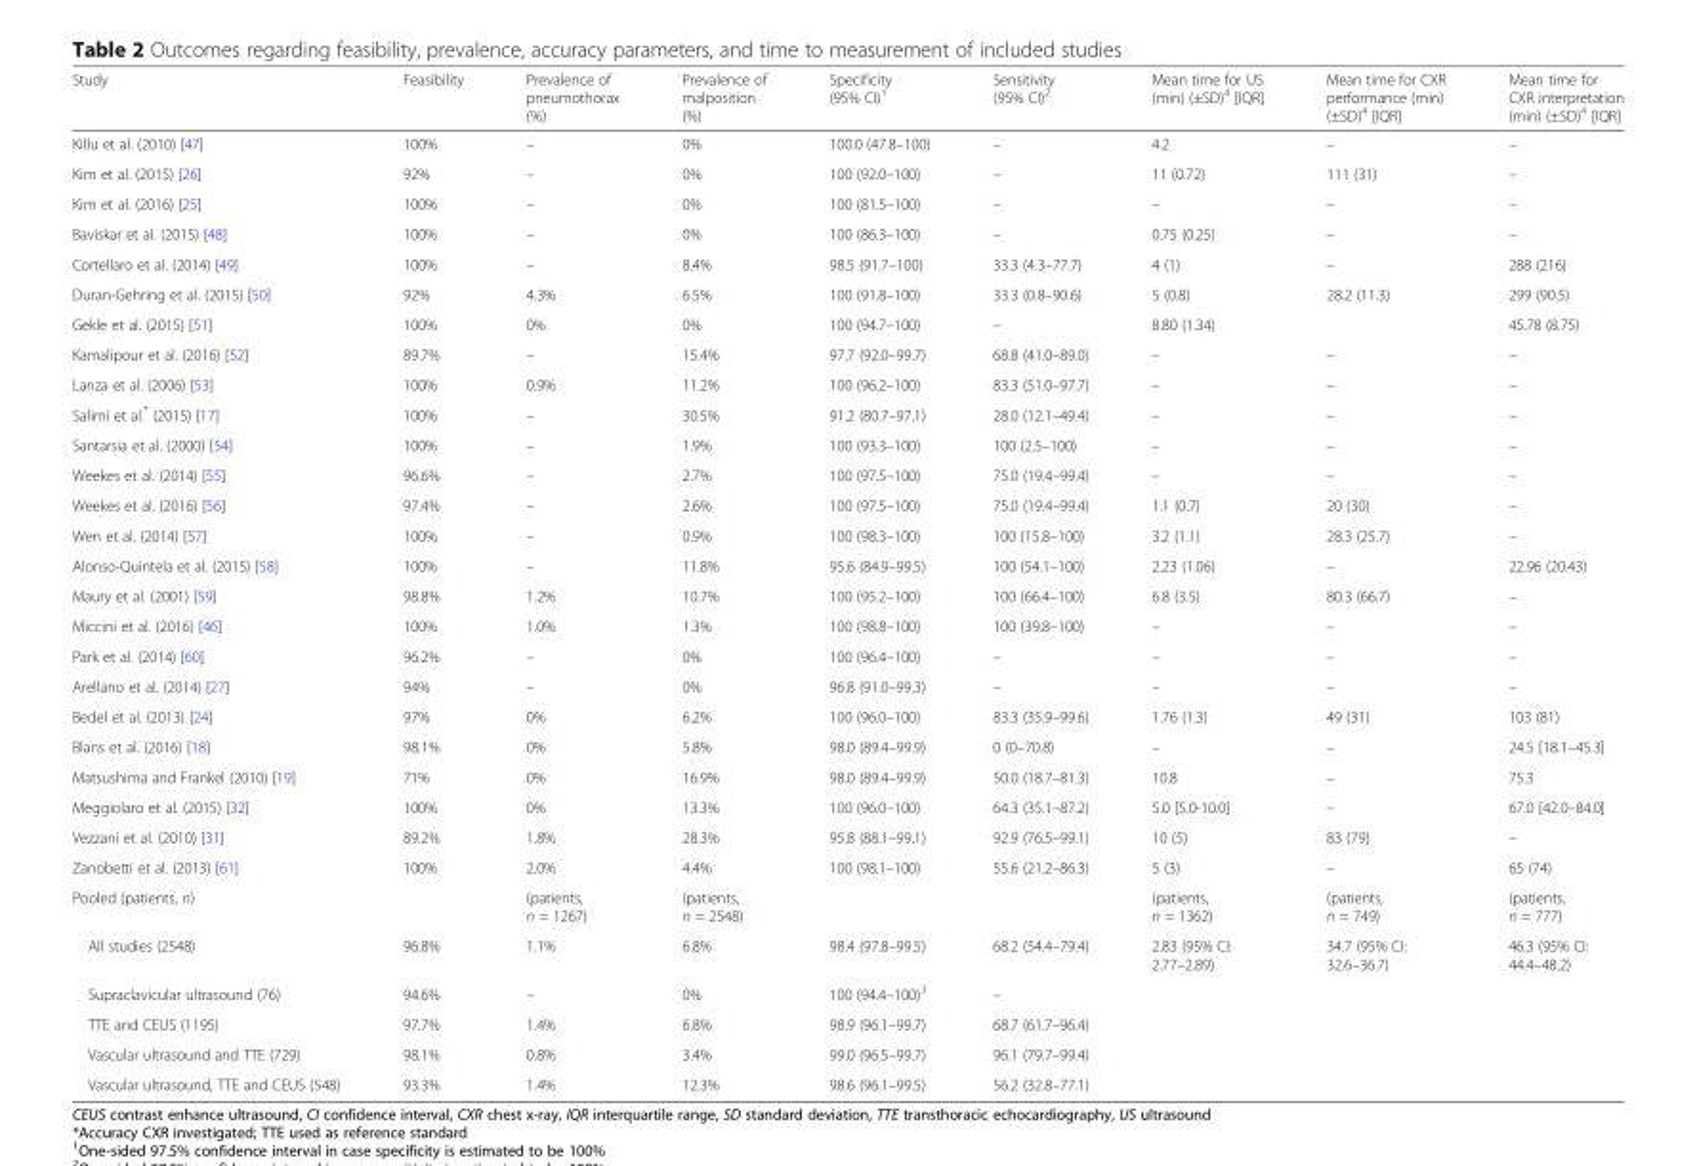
<table><thead><tr><td>Study</td><td>Feasibility</td><td>Prevalence of pneumothorax (%)</td><td>Prevalence of malposition (%)</td><td>Specificity (95% CI)<sup>1</sup></td><td>Sensitivity (95% CI)<sup>2</sup></td><td>Mean time for US (min) (±SD)<sup>4</sup> [IQR]</td><td>Mean time for CXR performance (min) (±SD)<sup>4</sup> [IQR]</td><td>Mean time for CXR interpretation (min) (±SD)<sup>4</sup> [IQR]</td></tr></thead><tbody><tr><td>Killu et al. (2010) [47]</td><td>100%</td><td>–</td><td>0%</td><td>100.0 (47.8–100)</td><td>–</td><td>4.2</td><td>–</td><td>–</td></tr><tr><td>Kim et al. (2015) [26]</td><td>92%</td><td>–</td><td>0%</td><td>100 (92.0–100)</td><td>–</td><td>11 (0.72)</td><td>111 (31)</td><td>–</td></tr><tr><td>Kim et al. (2016) [25]</td><td>100%</td><td>–</td><td>0%</td><td>100 (81.5–100)</td><td>–</td><td>–</td><td>–</td><td>–</td></tr><tr><td>Baviskar et al. (2015) [48]</td><td>100%</td><td>–</td><td>0%</td><td>100 (86.3–100)</td><td>–</td><td>0.75 (0.25)</td><td>–</td><td>–</td></tr><tr><td>Cortellaro et al. (2014) [49]</td><td>100%</td><td>–</td><td>8.4%</td><td>98.5 (91.7–100)</td><td>33.3 (4.3–77.7)</td><td>4 (1)</td><td>–</td><td>288 (216)</td></tr><tr><td>Duran-Gehring et al. (2015) [50]</td><td>92%</td><td>4.3%</td><td>6.5%</td><td>100 (91.8–100)</td><td>33.3 (0.8–90.6)</td><td>5 (0.8)</td><td>28.2 (11.3)</td><td>299 (90.5)</td></tr><tr><td>Gekle et al. (2015) [51]</td><td>100%</td><td>0%</td><td>0%</td><td>100 (94.7–100)</td><td>–</td><td>8.80 (1.34)</td><td></td><td>45.78 (8.75)</td></tr><tr><td>Kamalipour et al. (2016) [52]</td><td>89.7%</td><td>–</td><td>15.4%</td><td>97.7 (92.0–99.7)</td><td>68.8 (41.0–89.0)</td><td>–</td><td>–</td><td>–</td></tr><tr><td>Lanza et al. (2006) [53]</td><td>100%</td><td>0.9%</td><td>11.2%</td><td>100 (96.2–100)</td><td>83.3 (51.0–97.7)</td><td>–</td><td>–</td><td>–</td></tr><tr><td>Salimi et al.* (2015) [17]</td><td>100%</td><td>–</td><td>30.5%</td><td>91.2 (80.7–97.1)</td><td>28.0 (12.1–49.4)</td><td>–</td><td>–</td><td>–</td></tr><tr><td>Santarsia et al. (2000) [54]</td><td>100%</td><td>–</td><td>1.9%</td><td>100 (93.3–100)</td><td>100 (2.5–100)</td><td>–</td><td>–</td><td>–</td></tr><tr><td>Weekes et al. (2014) [55]</td><td>96.6%</td><td>–</td><td>2.7%</td><td>100 (97.5–100)</td><td>75.0 (19.4–99.4)</td><td>–</td><td>–</td><td>–</td></tr><tr><td>Weekes et al. (2016) [56]</td><td>97.4%</td><td>–</td><td>2.6%</td><td>100 (97.5–100)</td><td>75.0 (19.4–99.4)</td><td>1.1 (0.7)</td><td>20 (30)</td><td>–</td></tr><tr><td>Wen et al. (2014) [57]</td><td>100%</td><td>–</td><td>0.9%</td><td>100 (98.3–100)</td><td>100 (15.8–100)</td><td>3.2 (1.1)</td><td>28.3 (25.7)</td><td>–</td></tr><tr><td>Alonso-Quintela et al. (2015) [58]</td><td>100%</td><td>–</td><td>11.8%</td><td>95.6 (84.9–99.5)</td><td>100 (54.1–100)</td><td>2.23 (1.06)</td><td>–</td><td>22.96 (20.43)</td></tr><tr><td>Maury et al. (2001) [59]</td><td>98.8%</td><td>1.2%</td><td>10.7%</td><td>100 (95.2–100)</td><td>100 (66.4–100)</td><td>6.8 (3.5)</td><td>80.3 (66.7)</td><td>–</td></tr><tr><td>Miccini et al. (2016) [46]</td><td>100%</td><td>1.0%</td><td>1.3%</td><td>100 (98.8–100)</td><td>100 (39.8–100)</td><td>–</td><td>–</td><td>–</td></tr><tr><td>Park et al. (2014) [60]</td><td>96.2%</td><td>–</td><td>0%</td><td>100 (96.4–100)</td><td>–</td><td>–</td><td>–</td><td>–</td></tr><tr><td>Arellano et al. (2014) [27]</td><td>94%</td><td>–</td><td>0%</td><td>96.8 (91.0–99.3)</td><td>–</td><td>–</td><td>–</td><td>–</td></tr><tr><td>Bedel et al. (2013) [24]</td><td>97%</td><td>0%</td><td>6.2%</td><td>100 (96.0–100)</td><td>83.3 (35.9–99.6)</td><td>1.76 (1.3)</td><td>49 (31)</td><td>103 (81)</td></tr><tr><td>Blans et al. (2016) [18]</td><td>98.1%</td><td>0%</td><td>5.8%</td><td>98.0 (89.4–99.9)</td><td>0 (0–70.8)</td><td>–</td><td>–</td><td>24.5 [18.1–45.3]</td></tr><tr><td>Matsushima and Frankel (2010) [19]</td><td>71%</td><td>0%</td><td>16.9%</td><td>98.0 (89.4–99.9)</td><td>50.0 (18.7–81.3)</td><td>10.8</td><td>–</td><td>75.3</td></tr><tr><td>Meggiolaro et al. (2015) [32]</td><td>100%</td><td>0%</td><td>13.3%</td><td>100 (96.0–100)</td><td>64.3 (35.1–87.2)</td><td>5.0 [5.0-10.0]</td><td>–</td><td>67.0 [42.0–84.0]</td></tr><tr><td>Vezzani et al. (2010) [31]</td><td>89.2%</td><td>1.8%</td><td>28.3%</td><td>95.8 (88.1–99.1)</td><td>92.9 (76.5–99.1)</td><td>10 (5)</td><td>83 (79)</td><td>–</td></tr><tr><td>Zanobetti et al. (2013) [61]</td><td>100%</td><td>2.0%</td><td>4.4%</td><td>100 (98.1–100)</td><td>55.6 (21.2–86.3)</td><td>5 (3)</td><td>–</td><td>65 (74)</td></tr><tr><td>Pooled (patients, n)</td><td></td><td>(patients, n = 1267)</td><td>(patients, n = 2548)</td><td></td><td></td><td>(patients, n = 1362)</td><td>(patients, n = 749)</td><td>(patients, n = 777)</td></tr><tr><td>All studies (2548)</td><td>96.8%</td><td>1.1%</td><td>6.8%</td><td>98.4 (97.8–99.5)</td><td>68.2 (54.4–79.4)</td><td>2.83 (95% CI: 2.77–2.89)</td><td>34.7 (95% CI: 32.6–36.7)</td><td>46.3 (95% CI: 44.4–48.2)</td></tr><tr><td>Supraclavicular ultrasound (76)</td><td>94.6%</td><td>–</td><td>0%</td><td>100 (94.4–100)<sup>3</sup></td><td>–</td><td></td><td></td><td></td></tr><tr><td>TTE and CEUS (1195)</td><td>97.7%</td><td>1.4%</td><td>6.8%</td><td>98.9 (96.1–99.7)</td><td>68.7 (61.7–96.4)</td><td></td><td></td><td></td></tr><tr><td>Vascular ultrasound and TTE (729)</td><td>98.1%</td><td>0.8%</td><td>3.4%</td><td>99.0 (96.5–99.7)</td><td>96.1 (79.7–99.4)</td><td></td><td></td><td></td></tr><tr><td>Vascular ultrasound, TTE and CEUS (548)</td><td>93.3%</td><td>1.4%</td><td>12.3%</td><td>98.6 (96.1–99.5)</td><td>56.2 (32.8–77.1)</td><td></td><td></td><td></td></tr></tbody></table>